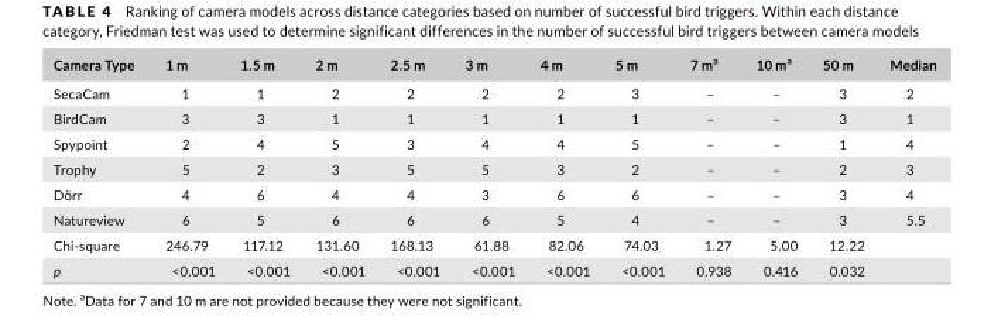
<table><thead><tr><td>Camera Type</td><td>1 m</td><td>1.5 m</td><td>2 m</td><td>2.5 m</td><td>3 m</td><td>4 m</td><td>5 m</td><td>7 m<sup>a</sup></td><td>10 m<sup>a</sup></td><td>50 m</td><td>Median</td></tr></thead><tbody><tr><td>SecaCam</td><td>1</td><td>1</td><td>2</td><td>2</td><td>2</td><td>2</td><td>3</td><td>–</td><td>–</td><td>3</td><td>2</td></tr><tr><td>BirdCam</td><td>3</td><td>3</td><td>1</td><td>1</td><td>1</td><td>1</td><td>1</td><td>–</td><td>–</td><td>3</td><td>1</td></tr><tr><td>Spypoint</td><td>2</td><td>4</td><td>5</td><td>3</td><td>4</td><td>4</td><td>5</td><td>–</td><td>–</td><td>1</td><td>4</td></tr><tr><td>Trophy</td><td>5</td><td>2</td><td>3</td><td>5</td><td>5</td><td>3</td><td>2</td><td>–</td><td>–</td><td>2</td><td>3</td></tr><tr><td>Dörr</td><td>4</td><td>6</td><td>4</td><td>4</td><td>3</td><td>6</td><td>6</td><td>–</td><td>–</td><td>3</td><td>4</td></tr><tr><td>Natureview</td><td>6</td><td>5</td><td>6</td><td>6</td><td>6</td><td>5</td><td>4</td><td>–</td><td>–</td><td>3</td><td>5.5</td></tr><tr><td>Chi- square</td><td>246.79</td><td>117.12</td><td>131.60</td><td>168.13</td><td>61.88</td><td>82.06</td><td>74.03</td><td>1.27</td><td>5.00</td><td>12.22</td><td></td></tr><tr><td>p</td><td>&lt;0.001</td><td>&lt;0.001</td><td>&lt;0.001</td><td>&lt;0.001</td><td>&lt;0.001</td><td>&lt;0.001</td><td>&lt;0.001</td><td>0.938</td><td>0.416</td><td>0.032</td><td></td></tr></tbody></table>